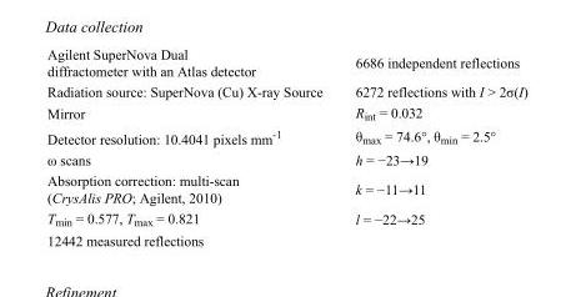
<table><tbody><tr><td>Agilent SuperNova Dual diffractometer with an Atlas detector</td><td>6686 independent reflections</td></tr><tr><td>Radiation source: SuperNova (Cu) X-ray Source</td><td>6272 reflections with I &gt; 2σ(I)</td></tr><tr><td>Mirror</td><td>R<sub>int</sub> = 0.032</td></tr><tr><td>Detector resolution: 10.4041 pixels mm<sup>-1</sup></td><td>θ<sub>max</sub> = 74.6°, θ<sub>min</sub> = 2.5°</td></tr><tr><td>ω scans</td><td>h = −23→19</td></tr><tr><td>Absorption correction: multi-scan (CrysAlis PRO; Agilent, 2010)</td><td>k = −11→11</td></tr><tr><td>T<sub>min</sub> = 0.577, T<sub>max</sub> = 0.821</td><td>l = −22→25</td></tr><tr><td>12442 measured reflections</td><td></td></tr></tbody></table>